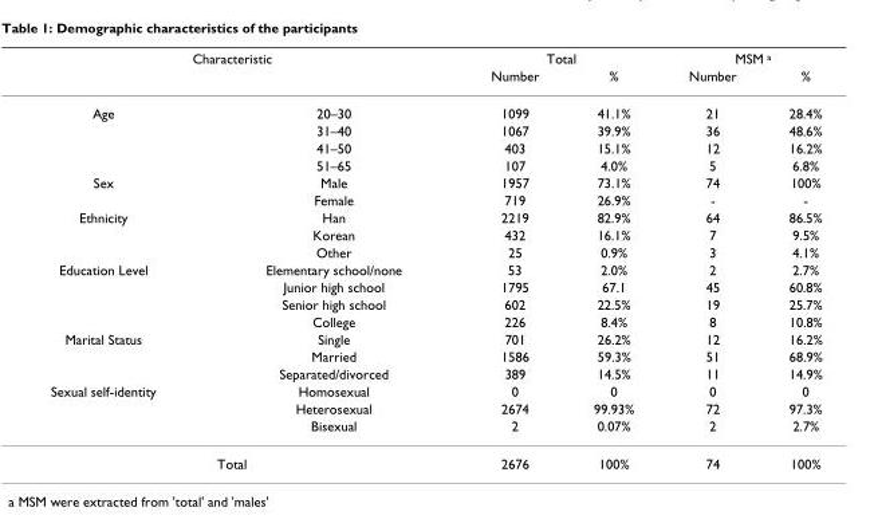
<table><thead><tr><td colspan="2">Characteristic</td><td colspan="2">Total</td><td colspan="2">MSM <sup>a</sup></td></tr><tr><td></td><td></td><td>Number</td><td>%</td><td>Number</td><td>%</td></tr></thead><tbody><tr><td rowspan="4">Age</td><td>20–30</td><td>1099</td><td>41.1%</td><td>21</td><td>28.4%</td></tr><tr><td>31–40</td><td>1067</td><td>39.9%</td><td>36</td><td>48.6%</td></tr><tr><td>41–50</td><td>403</td><td>15.1%</td><td>12</td><td>16.2%</td></tr><tr><td>51–65</td><td>107</td><td>4.0%</td><td>5</td><td>6.8%</td></tr><tr><td rowspan="2">Sex</td><td>Male</td><td>1957</td><td>73.1%</td><td>74</td><td>100%</td></tr><tr><td>Female</td><td>719</td><td>26.9%</td><td>-</td><td>-</td></tr><tr><td rowspan="3">Ethnicity</td><td>Han</td><td>2219</td><td>82.9%</td><td>64</td><td>86.5%</td></tr><tr><td>Korean</td><td>432</td><td>16.1%</td><td>7</td><td>9.5%</td></tr><tr><td>Other</td><td>25</td><td>0.9%</td><td>3</td><td>4.1%</td></tr><tr><td rowspan="4">Education Level</td><td>Elementary school/none</td><td>53</td><td>2.0%</td><td>2</td><td>2.7%</td></tr><tr><td>Junior high school</td><td>1795</td><td>67.1</td><td>45</td><td>60.8%</td></tr><tr><td>Senior high school</td><td>602</td><td>22.5%</td><td>19</td><td>25.7%</td></tr><tr><td>College</td><td>226</td><td>8.4%</td><td>8</td><td>10.8%</td></tr><tr><td rowspan="3">Marital Status</td><td>Single</td><td>701</td><td>26.2%</td><td>12</td><td>16.2%</td></tr><tr><td>Married</td><td>1586</td><td>59.3%</td><td>51</td><td>68.9%</td></tr><tr><td>Separated/divorced</td><td>389</td><td>14.5%</td><td>11</td><td>14.9%</td></tr><tr><td rowspan="3">Sexual self-identity</td><td>Homosexual</td><td>0</td><td>0</td><td>0</td><td>0</td></tr><tr><td>Heterosexual</td><td>2674</td><td>99.93%</td><td>72</td><td>97.3%</td></tr><tr><td>Bisexual</td><td>2</td><td>0.07%</td><td>2</td><td>2.7%</td></tr><tr><td colspan="2">Total</td><td>2676</td><td>100%</td><td>74</td><td>100%</td></tr></tbody></table>